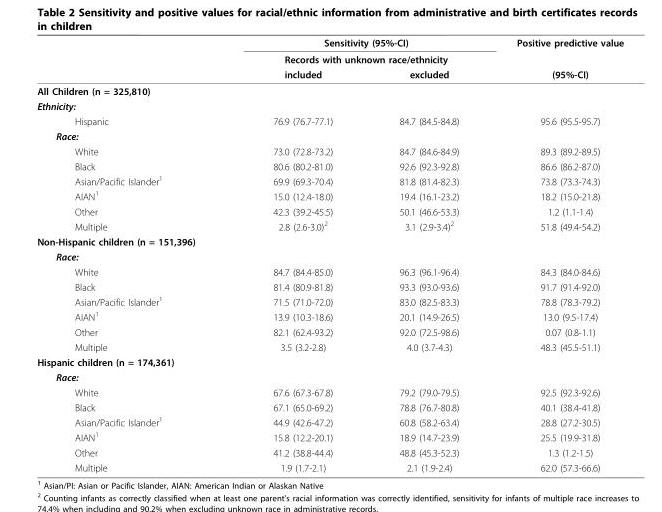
<table><thead><tr><td rowspan="3"></td><td rowspan="2" colspan="2">Sensitivity (95%-CI) Records with unknown race/ethnicity</td><td rowspan="3">Positive predictive value (95%-CI)</td></tr><tr></tr><tr><td>included</td><td>excluded</td></tr></thead><tbody><tr><td colspan="4">All Children (n = 325,810)</td></tr><tr><td colspan="4">Ethnicity:</td></tr><tr><td>Hispanic</td><td>76.9 (76.7-77.1)</td><td>84.7 (84.5-84.8)</td><td>95.6 (95.5-95.7)</td></tr><tr><td colspan="4">Race:</td></tr><tr><td>White</td><td>73.0 (72.8-73.2)</td><td>84.7 (84.6-84.9)</td><td>89.3 (89.2-89.5)</td></tr><tr><td>Black</td><td>80.6 (80.2-81.0)</td><td>92.6 (92.3-92.8)</td><td>86.6 (86.2-87.0)</td></tr><tr><td>Asian/Pacific Islander<sup>1</sup></td><td>69.9 (69.3-70.4)</td><td>81.8 (81.4-82.3)</td><td>73.8 (73.3-74.3)</td></tr><tr><td>AIAN<sup>1</sup></td><td>15.0 (12.4-18.0)</td><td>19.4 (16.1-23.2)</td><td>18.2 (15.0-21.8)</td></tr><tr><td>Other</td><td>42.3 (39.2-45.5)</td><td>50.1 (46.6-53.3)</td><td>1.2 (1.1-1.4)</td></tr><tr><td>Multiple</td><td>2.8 (2.6-3.0)<sup>2</sup></td><td>3.1 (2.9-3.4)<sup>2</sup></td><td>51.8 (49.4-54.2)</td></tr><tr><td colspan="4">Non-Hispanic children (n = 151,396)</td></tr><tr><td colspan="4">Race:</td></tr><tr><td>White</td><td>84.7 (84.4-85.0)</td><td>96.3 (96.1-96.4)</td><td>84.3 (84.0-84.6)</td></tr><tr><td>Black</td><td>81.4 (80.9-81.8)</td><td>93.3 (93.0-93.6)</td><td>91.7 (91.4-92.0)</td></tr><tr><td>Asian/Pacific Islander<sup>1</sup></td><td>71.5 (71.0-72.0)</td><td>83.0 (82.5-83.3)</td><td>78.8 (78.3-79.2)</td></tr><tr><td>AIAN<sup>1</sup></td><td>13.9 (10.3-18.6)</td><td>20.1 (14.9-26.5)</td><td>13.0 (9.5-17.4)</td></tr><tr><td>Other</td><td>82.1 (62.4-93.2)</td><td>92.0 (72.5-98.6)</td><td>0.07 (0.8-1.1)</td></tr><tr><td>Multiple</td><td>3.5 (3.2-2.8)</td><td>4.0 (3.7-4.3)</td><td>48.3 (45.5-51.1)</td></tr><tr><td colspan="4">Hispanic children (n = 174,361)</td></tr><tr><td colspan="4">Race:</td></tr><tr><td>White</td><td>67.6 (67.3-67.8)</td><td>79.2 (79.0-79.5)</td><td>92.5 (92.3-92.6)</td></tr><tr><td>Black</td><td>67.1 (65.0-69.2)</td><td>78.8 (76.7-80.8)</td><td>40.1 (38.4-41.8)</td></tr><tr><td>Asian/Pacific Islander<sup>1</sup></td><td>44.9 (42.6-47.2)</td><td>60.8 (58.2-63.4)</td><td>28.8 (27.2-30.5)</td></tr><tr><td>AIAN<sup>1</sup></td><td>15.8 (12.2-20.1)</td><td>18.9 (14.7-23.9)</td><td>25.5 (19.9-31.8)</td></tr><tr><td>Other</td><td>41.2 (38.8-44.4)</td><td>48.8 (45.3-52.3)</td><td>1.3 (1.2-1.5)</td></tr><tr><td>Multiple</td><td>1.9 (1.7-2.1)</td><td>2.1 (1.9-2.4)</td><td>62.0 (57.3-66.6)</td></tr></tbody></table>